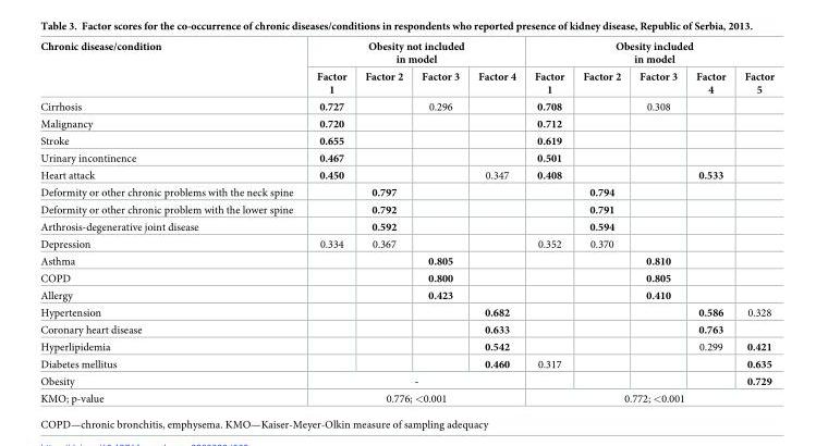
<table><thead><tr><td rowspan="2">Chronic disease/condition</td><td colspan="4">Obesity not included in model</td><td colspan="5">Obesity included in model</td></tr><tr><td>Factor 1</td><td>Factor 2</td><td>Factor 3</td><td>Factor 4</td><td>Factor 1</td><td>Factor 2</td><td>Factor 3</td><td>Factor 4</td><td>Factor 5</td></tr></thead><tbody><tr><td>Cirrhosis</td><td>0.727</td><td></td><td>0.296</td><td></td><td>0.708</td><td></td><td>0.308</td><td></td><td></td></tr><tr><td>Malignancy</td><td>0.720</td><td></td><td></td><td></td><td>0.712</td><td></td><td></td><td></td><td></td></tr><tr><td>Stroke</td><td>0.655</td><td></td><td></td><td></td><td>0.619</td><td></td><td></td><td></td><td></td></tr><tr><td>Urinary incontinence</td><td>0.467</td><td></td><td></td><td></td><td>0.501</td><td></td><td></td><td></td><td></td></tr><tr><td>Heart attack</td><td>0.450</td><td></td><td></td><td>0.347</td><td>0.408</td><td></td><td></td><td>0.533</td><td></td></tr><tr><td>Deformity or other chronic problems with the neck spine</td><td></td><td>0.797</td><td></td><td></td><td></td><td>0.794</td><td></td><td></td><td></td></tr><tr><td>Deformity or other chronic problem with the lower spine</td><td></td><td>0.792</td><td></td><td></td><td></td><td>0.791</td><td></td><td></td><td></td></tr><tr><td>Arthrosis-degenerative joint disease</td><td></td><td>0.592</td><td></td><td></td><td></td><td>0.594</td><td></td><td></td><td></td></tr><tr><td>Depression</td><td>0.334</td><td>0.367</td><td></td><td></td><td>0.352</td><td>0.370</td><td></td><td></td><td></td></tr><tr><td>Asthma</td><td></td><td></td><td>0.805</td><td></td><td></td><td></td><td>0.810</td><td></td><td></td></tr><tr><td>COPD</td><td></td><td></td><td>0.800</td><td></td><td></td><td></td><td>0.805</td><td></td><td></td></tr><tr><td>Allergy</td><td></td><td></td><td>0.423</td><td></td><td></td><td></td><td>0.410</td><td></td><td></td></tr><tr><td>Hypertension</td><td></td><td></td><td></td><td>0.682</td><td></td><td></td><td></td><td>0.586</td><td>0.328</td></tr><tr><td>Coronary heart disease</td><td></td><td></td><td></td><td>0.633</td><td></td><td></td><td></td><td>0.763</td><td></td></tr><tr><td>Hyperlipidemia</td><td></td><td></td><td></td><td>0.542</td><td></td><td></td><td></td><td>0.299</td><td>0.421</td></tr><tr><td>Diabetes mellitus</td><td></td><td></td><td></td><td>0.460</td><td>0.317</td><td></td><td></td><td></td><td>0.635</td></tr><tr><td>Obesity</td><td colspan="4">-</td><td></td><td></td><td></td><td></td><td>0.729</td></tr><tr><td>KMO; p-value</td><td colspan="4">0.776; &lt;0.001</td><td colspan="5">0.772; &lt;0.001</td></tr></tbody></table>